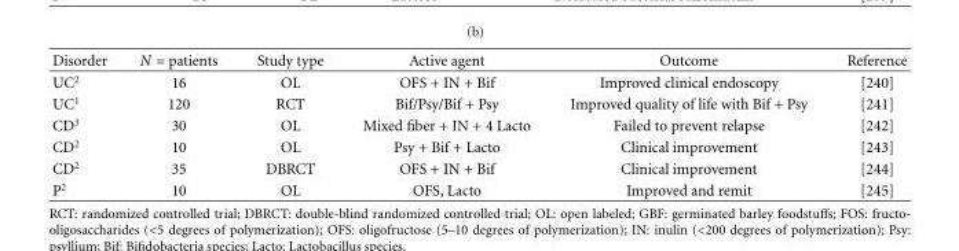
<table><thead><tr><td>Disorder</td><td>N = patients</td><td>Study type</td><td>Active agent</td><td>Outcome</td><td>Reference</td></tr></thead><tbody><tr><td>UC<sup>2</sup></td><td>16</td><td>OL</td><td>OFS + IN + Bif</td><td>Improved clinical endoscopy</td><td>[240]</td></tr><tr><td>UC<sup>1</sup></td><td>120</td><td>RCT</td><td>Bif/Psy/Bif + Psy</td><td>Improved quality of life with Bif + Psy</td><td>[241]</td></tr><tr><td>CD<sup>3</sup></td><td>30</td><td>OL</td><td>Mixed fiber + IN + 4 Lacto</td><td>Failed to prevent relapse</td><td>[242]</td></tr><tr><td>CD<sup>2</sup></td><td>10</td><td>OL</td><td>Psy + Bif + Lacto</td><td>Clinical improvement</td><td>[243]</td></tr><tr><td>CD<sup>2</sup></td><td>35</td><td>DBRCT</td><td>OFS + IN + Bif</td><td>Clinical improvement</td><td>[244]</td></tr><tr><td>P<sup>2</sup></td><td>10</td><td>OL</td><td>OFS, Lacto</td><td>Improved and remit</td><td>[245]</td></tr></tbody></table>